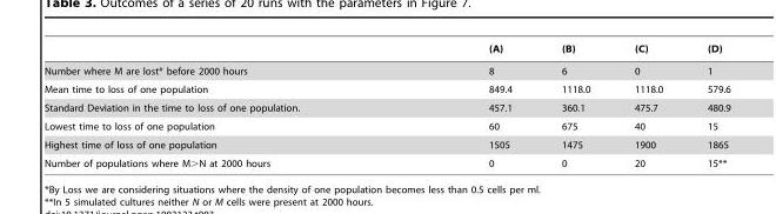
<table><thead><tr><td></td><td>(A)</td><td>(B)</td><td>(C)</td><td>(D)</td></tr></thead><tbody><tr><td>Number where M are lost* before 2000 hours</td><td>8</td><td>6</td><td>0</td><td>1</td></tr><tr><td>Mean time to loss of one population</td><td>849.4</td><td>1118.0</td><td>1118.0</td><td>579.6</td></tr><tr><td>Standard Deviation in the time to loss of one population.</td><td>457.1</td><td>360.1</td><td>475.7</td><td>480.9</td></tr><tr><td>Lowest time to loss of one population</td><td>60</td><td>675</td><td>40</td><td>15</td></tr><tr><td>Highest time of loss of one population</td><td>1505</td><td>1475</td><td>1900</td><td>1865</td></tr><tr><td>Number of populations where M&gt;N at 2000 hours</td><td>0</td><td>0</td><td>20</td><td>15**</td></tr></tbody></table>